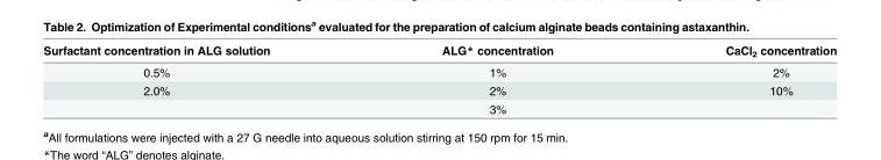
<table><thead><tr><td>Surfactant concentration in ALG solution</td><td>ALG* concentration</td><td>CaCl<sub>2</sub> concentration</td></tr></thead><tbody><tr><td>0.5%</td><td>1%</td><td>2%</td></tr><tr><td rowspan="2">2.0%</td><td>2%</td><td>10%</td></tr><tr><td>3%</td><td></td></tr></tbody></table>